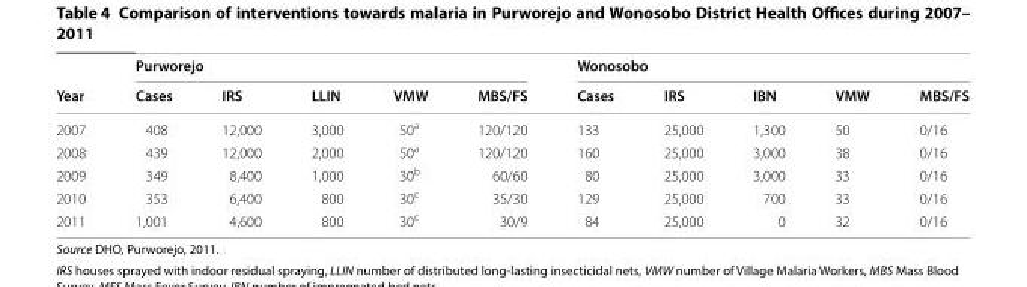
<table><thead><tr><td rowspan="2">Year</td><td colspan="5">Purworejo</td><td colspan="5">Wonosobo</td></tr><tr><td>Cases</td><td>IRS</td><td>LLIN</td><td>VMW</td><td>MBS/FS</td><td>Cases</td><td>IRS</td><td>IBN</td><td>VMW</td><td>MBS/FS</td></tr></thead><tbody><tr><td>2007</td><td>408</td><td>12,000</td><td>3,000</td><td>50<sup>a</sup></td><td>120/120</td><td>133</td><td>25,000</td><td>1,300</td><td>50</td><td>0/16</td></tr><tr><td>2008</td><td>439</td><td>12,000</td><td>2,000</td><td>50<sup>a</sup></td><td>120/120</td><td>160</td><td>25,000</td><td>3,000</td><td>38</td><td>0/16</td></tr><tr><td>2009</td><td>349</td><td>8,400</td><td>1,000</td><td>30<sup>b</sup></td><td>60/60</td><td>80</td><td>25,000</td><td>3,000</td><td>33</td><td>0/16</td></tr><tr><td>2010</td><td>353</td><td>6,400</td><td>800</td><td>30<sup>c</sup></td><td>35/30</td><td>129</td><td>25,000</td><td>700</td><td>33</td><td>0/16</td></tr><tr><td>2011</td><td>1,001</td><td>4,600</td><td>800</td><td>30<sup>c</sup></td><td>30/9</td><td>84</td><td>25,000</td><td>0</td><td>32</td><td>0/16</td></tr></tbody></table>